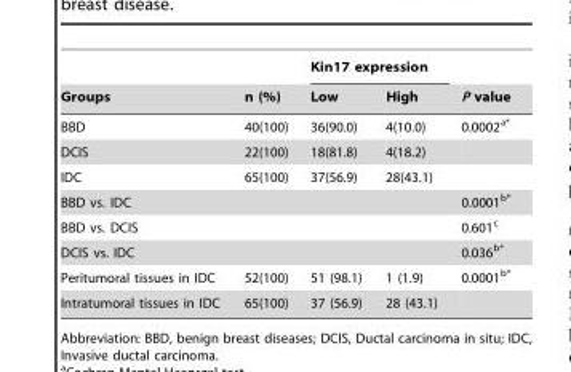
<table><thead><tr><td rowspan="2">Groups</td><td rowspan="2">n (%)</td><td colspan="2">Kin17 expression</td><td rowspan="2">P value</td></tr><tr><td>Low</td><td>High</td></tr></thead><tbody><tr><td>BBD</td><td>40(100)</td><td>36(90.0)</td><td>4(10.0)</td><td>0.0002<sup>a</sup>*</td></tr><tr><td>DCIS</td><td>22(100)</td><td>18(81.8)</td><td>4(18.2)</td><td></td></tr><tr><td>IDC</td><td>65(100)</td><td>37(56.9)</td><td>28(43.1)</td><td></td></tr><tr><td colspan="4">BBD vs. IDC</td><td>0.0001<sup>b</sup>*</td></tr><tr><td colspan="4">BBD vs. DCIS</td><td>0.601<sup>c</sup></td></tr><tr><td colspan="4">DCIS vs. IDC</td><td>0.036<sup>b</sup>*</td></tr><tr><td>Peritumoral tissues in IDC</td><td>52(100)</td><td>51 (98.1)</td><td>1 (1.9)</td><td>0.0001<sup>b</sup>*</td></tr><tr><td>Intratumoral tissues in IDC</td><td>65(100)</td><td>37 (56.9)</td><td>28 (43.1)</td><td></td></tr></tbody></table>